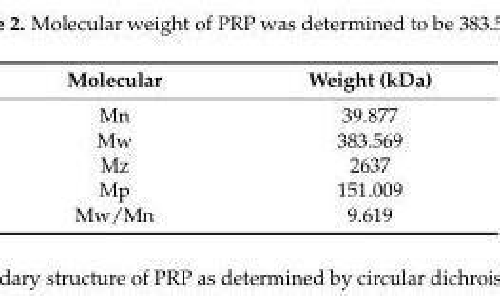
<table><thead><tr><td>Molecular</td><td>Weight (kDa)</td></tr></thead><tbody><tr><td>Mn</td><td>39.877</td></tr><tr><td>Mw</td><td>383.569</td></tr><tr><td>Mz</td><td>2637</td></tr><tr><td>Mp</td><td>151.009</td></tr><tr><td>Mw/Mn</td><td>9.619</td></tr></tbody></table>